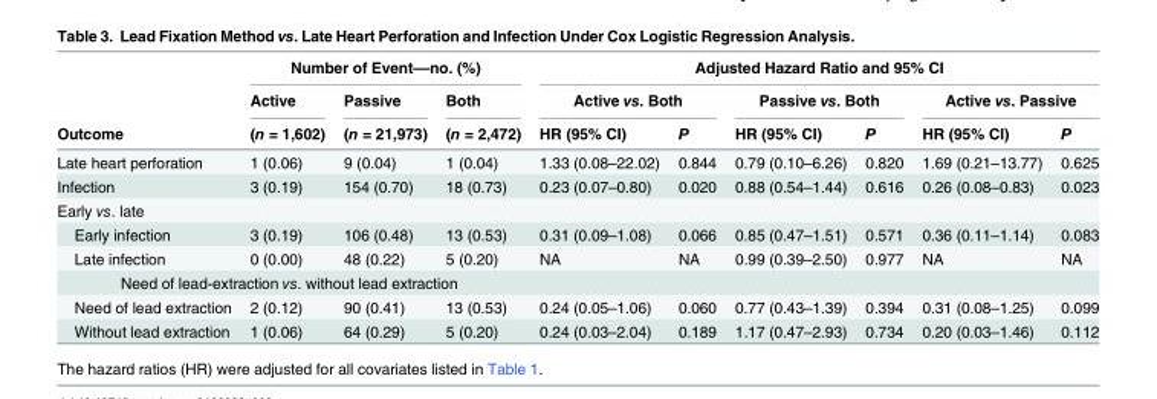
<table><thead><tr><td rowspan="3">Outcome</td><td colspan="3">Number of Event––no. (%)</td><td colspan="6">Adjusted Hazard Ratio and 95% CI</td></tr><tr><td rowspan="2">Active (n = 1,602)</td><td rowspan="2">Passive (n = 21,973)</td><td rowspan="2">Both (n = 2,472)</td><td colspan="2">Active vs. Both</td><td colspan="2">Passive vs. Both</td><td colspan="2">Active vs. Passive</td></tr><tr><td>HR (95% CI)</td><td>P</td><td>HR (95% CI)</td><td>P</td><td>HR (95% CI)</td><td>P</td></tr></thead><tbody><tr><td>Late heart perforation</td><td>1 (0.06)</td><td>9 (0.04)</td><td>1 (0.04)</td><td>1.33 (0.08–22.02)</td><td>0.844</td><td>0.79 (0.10–6.26)</td><td>0.820</td><td>1.69 (0.21–13.77)</td><td>0.625</td></tr><tr><td>Infection</td><td>3 (0.19)</td><td>154 (0.70)</td><td>18 (0.73)</td><td>0.23 (0.07–0.80)</td><td>0.020</td><td>0.88 (0.54–1.44)</td><td>0.616</td><td>0.26 (0.08–0.83)</td><td>0.023</td></tr><tr><td colspan="10">Early vs. late</td></tr><tr><td>Early infection</td><td>3 (0.19)</td><td>106 (0.48)</td><td>13 (0.53)</td><td>0.31 (0.09–1.08)</td><td>0.066</td><td>0.85 (0.47–1.51)</td><td>0.571</td><td>0.36 (0.11–1.14)</td><td>0.083</td></tr><tr><td>Late infection</td><td>0 (0.00)</td><td>48 (0.22)</td><td>5 (0.20)</td><td>NA</td><td>NA</td><td>0.99 (0.39–2.50)</td><td>0.977</td><td>NA</td><td>NA</td></tr><tr><td colspan="10">Need of lead-extraction vs. without lead extraction</td></tr><tr><td>Need of lead extraction</td><td>2 (0.12)</td><td>90 (0.41)</td><td>13 (0.53)</td><td>0.24 (0.05–1.06)</td><td>0.060</td><td>0.77 (0.43–1.39)</td><td>0.394</td><td>0.31 (0.08–1.25)</td><td>0.099</td></tr><tr><td>Without lead extraction</td><td>1 (0.06)</td><td>64 (0.29)</td><td>5 (0.20)</td><td>0.24 (0.03–2.04)</td><td>0.189</td><td>1.17 (0.47–2.93)</td><td>0.734</td><td>0.20 (0.03–1.46)</td><td>0.112</td></tr></tbody></table>